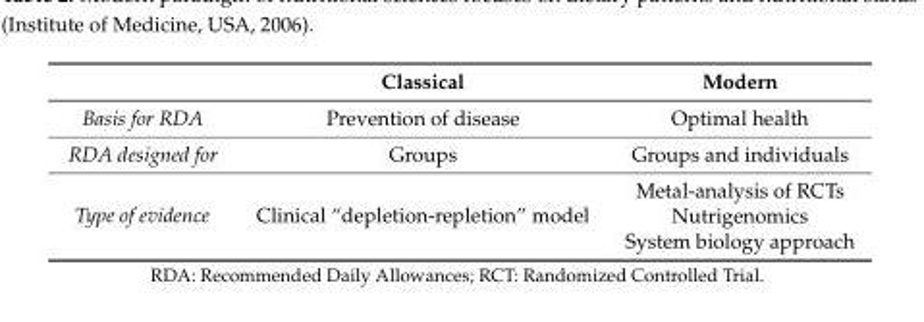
<table><thead><tr><td></td><td>Classical</td><td>Modern</td></tr></thead><tbody><tr><td>Basis for RDA</td><td>Prevention of disease</td><td>Optimal health</td></tr><tr><td>RDA designed for</td><td>Groups</td><td>Groups and individuals</td></tr><tr><td rowspan="3">Type of evidence</td><td rowspan="3">Clinical “depletion-repletion” model</td><td>Metal-analysis of RCTs</td></tr><tr><td>Nutrigenomics</td></tr><tr><td>System biology approach</td></tr></tbody></table>